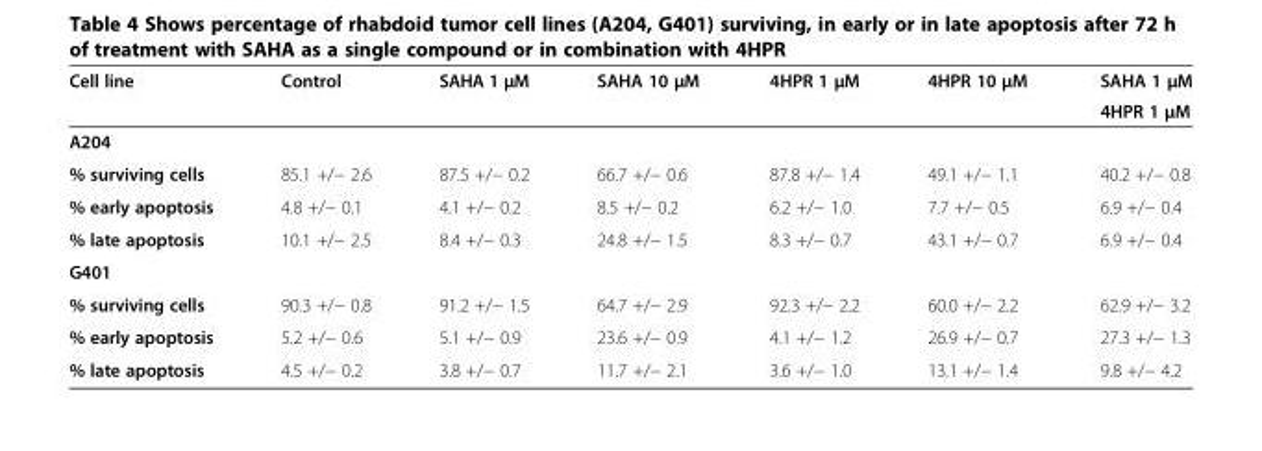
<table><thead><tr><td rowspan="2">Cell line</td><td rowspan="2">Control</td><td rowspan="2">SAHA 1 μM</td><td rowspan="2">SAHA 10 μM</td><td rowspan="2">4HPR 1 μM</td><td rowspan="2">4HPR 10 μM</td><td rowspan="2">SAHA 1 μM 4HPR 1 μM</td></tr><tr></tr></thead><tbody><tr><td colspan="7">A204</td></tr><tr><td>% surviving cells</td><td>85.1 +/− 2.6</td><td>87.5 +/− 0.2</td><td>66.7 +/− 0.6</td><td>87.8 +/− 1.4</td><td>49.1 +/− 1.1</td><td>40.2 +/− 0.8</td></tr><tr><td>% early apoptosis</td><td>4.8 +/− 0.1</td><td>4.1 +/− 0.2</td><td>8.5 +/− 0.2</td><td>6.2 +/− 1.0</td><td>7.7 +/− 0.5</td><td>6.9 +/− 0.4</td></tr><tr><td>% late apoptosis</td><td>10.1 +/− 2.5</td><td>8.4 +/− 0.3</td><td>24.8 +/− 1.5</td><td>8.3 +/− 0.7</td><td>43.1 +/− 0.7</td><td>6.9 +/− 0.4</td></tr><tr><td colspan="7">G401</td></tr><tr><td>% surviving cells</td><td>90.3 +/− 0.8</td><td>91.2 +/− 1.5</td><td>64.7 +/− 2.9</td><td>92.3 +/− 2.2</td><td>60.0 +/− 2.2</td><td>62.9 +/− 3.2</td></tr><tr><td>% early apoptosis</td><td>5.2 +/− 0.6</td><td>5.1 +/− 0.9</td><td>23.6 +/− 0.9</td><td>4.1 +/− 1.2</td><td>26.9 +/− 0.7</td><td>27.3 +/− 1.3</td></tr><tr><td>% late apoptosis</td><td>4.5 +/− 0.2</td><td>3.8 +/− 0.7</td><td>11.7 +/− 2.1</td><td>3.6 +/− 1.0</td><td>13.1 +/− 1.4</td><td>9.8 +/− 4.2</td></tr></tbody></table>